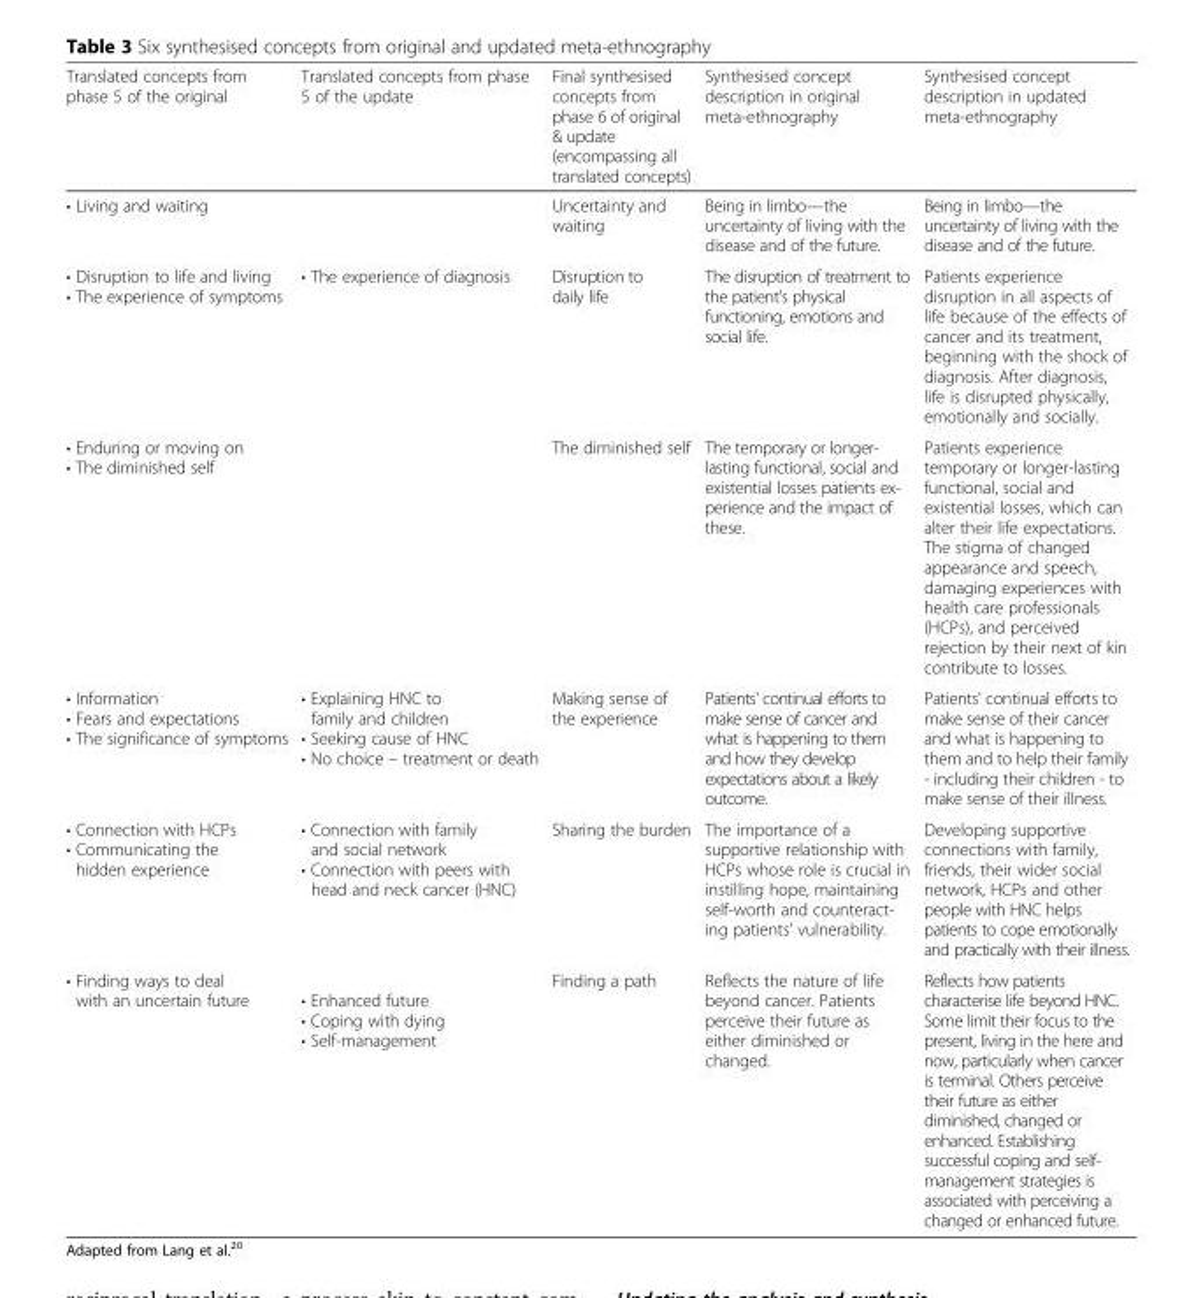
<table><thead><tr><td>Translated concepts from phase 5 of the original</td><td>Translated concepts from phase 5 of the update</td><td>Final synthesised concepts from phase 6 of original &amp; update (encompassing all translated concepts)</td><td>Synthesised concept description in original meta-ethnography</td><td>Synthesised concept description in updated meta-ethnography</td></tr></thead><tbody><tr><td>• Living and waiting</td><td></td><td>Uncertainty and waiting</td><td>Being in limbo—the uncertainty of living with the disease and of the future.</td><td>Being in limbo—the uncertainty of living with the disease and of the future.</td></tr><tr><td>• Disruption to life and living • The experience of symptoms</td><td>• The experience of diagnosis</td><td>Disruption to daily life</td><td>The disruption of treatment to the patient&#x27;s physical functioning, emotions and social life.</td><td>Patients experience disruption in all aspects of life because of the effects of cancer and its treatment, beginning with the shock of diagnosis. After diagnosis, life is disrupted physically, emotionally and socially.</td></tr><tr><td>• Enduring or moving on • The diminished self</td><td></td><td>The diminished self</td><td>The temporary or longer- lasting functional, social and existential losses patients ex- perience and the impact of these.</td><td>Patients experience temporary or longer-lasting functional, social and existential losses, which can alter their life expectations. The stigma of changed appearance and speech, damaging experiences with health care professionals (HCPs), and perceived rejection by their next of kin contribute to losses.</td></tr><tr><td>• Information • Fears and expectations • The significance of symptoms</td><td>• Explaining HNC to family and children • Seeking cause of HNC • No choice – treatment or death</td><td>Making sense of the experience</td><td>Patients&#x27; continual efforts to make sense of cancer and what is happening to them and how they develop expectations about a likely outcome.</td><td>Patients&#x27; continual efforts to make sense of their cancer and what is happening to them and to help their family - including their children - to make sense of their illness.</td></tr><tr><td>• Connection with HCPs • Communicating the hidden experience</td><td>• Connection with family and social network • Connection with peers with head and neck cancer (HNC)</td><td>Sharing the burden</td><td>The importance of a supportive relationship with HCPs whose role is crucial in instilling hope, maintaining self-worth and counteract- ing patients&#x27; vulnerability.</td><td>Developing supportive connections with family, friends, their wider social network, HCPs and other people with HNC helps patients to cope emotionally and practically with their illness.</td></tr><tr><td>• Finding ways to deal with an uncertain future</td><td>• Enhanced future • Coping with dying • Self-management</td><td>Finding a path</td><td>Reflects the nature of life beyond cancer. Patients perceive their future as either diminished or changed.</td><td>Reflects how patients characterise life beyond HNC. Some limit their focus to the present, living in the here and now, particularly when cancer is terminal. Others perceive their future as either diminished, changed or enhanced. Establishing successful coping and self- management strategies is associated with perceiving a changed or enhanced future.</td></tr></tbody></table>